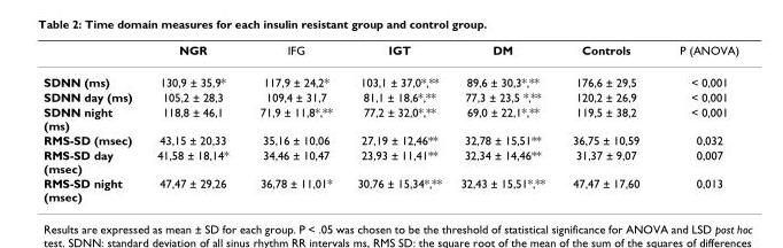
<table><thead><tr><td></td><td>NGR</td><td>IFG</td><td>IGT</td><td>DM</td><td>Controls</td><td>P (ANOVA)</td></tr></thead><tbody><tr><td>SDNN (ms)</td><td>130,9 ± 35,9*</td><td>117,9 ± 24,2*</td><td>103,1 ± 37,0*,**</td><td>89,6 ± 30,3*,**</td><td>176,6 ± 29,5</td><td>&lt; 0,001</td></tr><tr><td>SDNN day (ms)</td><td>105,2 ± 28,3</td><td>109,4 ± 31,7</td><td>81,1 ± 18,6*,**</td><td>77,3 ± 23,5 *,**</td><td>120,2 ± 26,9</td><td>&lt; 0,001</td></tr><tr><td>SDNN night (ms)</td><td>118,8 ± 46,1</td><td>71,9 ± 11,8*,**</td><td>77,2 ± 32,0*,**</td><td>69,0 ± 22,1*,**</td><td>119,5 ± 38,2</td><td>&lt; 0,001</td></tr><tr><td>RMS-SD (msec)</td><td>43,15 ± 20,33</td><td>35,16 ± 10,06</td><td>27,19 ± 12,46**</td><td>32,78 ± 15,51**</td><td>36,75 ± 10,59</td><td>0,032</td></tr><tr><td>RMS-SD day (msec)</td><td>41,58 ± 18,14*</td><td>34,46 ± 10,47</td><td>23,93 ± 11,41**</td><td>32,34 ± 14,46**</td><td>31,37 ± 9,07</td><td>0,007</td></tr><tr><td>RMS-SD night (msec)</td><td>47,47 ± 29,26</td><td>36,78 ± 11,01*</td><td>30,76 ± 15,34*,**</td><td>32,43 ± 15,51*,**</td><td>47,47 ± 17,60</td><td>0,013</td></tr></tbody></table>